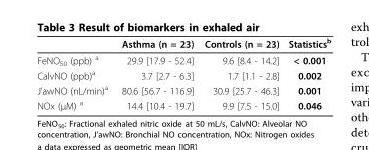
<table><thead><tr><td></td><td>Asthma (n = 23)</td><td>Controls (n = 23)</td><td>Statistics<sup>b</sup></td></tr></thead><tbody><tr><td>FeNO<sub>50</sub> (ppb) <sup>a</sup></td><td>29.9 [17.9 - 52.4]</td><td>9.6 [8.4 - 14.2]</td><td>&lt; 0.001</td></tr><tr><td>CalvNO (ppb)<sup>a</sup></td><td>3.7 [2.7 - 6.3]</td><td>1.7 [1.1 - 2.8]</td><td>0.002</td></tr><tr><td>J’awNO (nL/min)<sup>a</sup></td><td>80.6 [56.7 - 116.9]</td><td>30.9 [25.7 - 46.3]</td><td>0.001</td></tr><tr><td>NOx (μM) <sup>a</sup></td><td>14.4 [10.4 - 19.7]</td><td>9.9 [7.5 - 15.0]</td><td>0.046</td></tr></tbody></table>